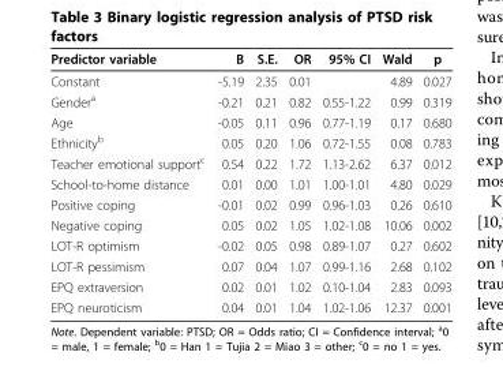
<table><thead><tr><td>Predictor variable</td><td>B</td><td>S.E.</td><td>OR</td><td>95% CI</td><td>Wald</td><td>p</td></tr></thead><tbody><tr><td>Constant</td><td>-5.19</td><td>2.35</td><td>0.01</td><td></td><td>4.89</td><td>0.027</td></tr><tr><td>Gender<sup>a</sup></td><td>-0.21</td><td>0.21</td><td>0.82</td><td>0.55-1.22</td><td>0.99</td><td>0.319</td></tr><tr><td>Age</td><td>-0.05</td><td>0.11</td><td>0.96</td><td>0.77-1.19</td><td>0.17</td><td>0.680</td></tr><tr><td>Ethnicity<sup>b</sup></td><td>0.05</td><td>0.20</td><td>1.06</td><td>0.72-1.55</td><td>0.08</td><td>0.783</td></tr><tr><td>Teacher emotional support<sup>c</sup></td><td>0.54</td><td>0.22</td><td>1.72</td><td>1.13-2.62</td><td>6.37</td><td>0.012</td></tr><tr><td>School-to-home distance</td><td>0.01</td><td>0.00</td><td>1.01</td><td>1.00-1.01</td><td>4.80</td><td>0.029</td></tr><tr><td>Positive coping</td><td>-0.01</td><td>0.02</td><td>0.99</td><td>0.96-1.03</td><td>0.26</td><td>0.610</td></tr><tr><td>Negative coping</td><td>0.05</td><td>0.02</td><td>1.05</td><td>1.02-1.08</td><td>10.06</td><td>0.002</td></tr><tr><td>LOT-R optimism</td><td>-0.02</td><td>0.05</td><td>0.98</td><td>0.89-1.07</td><td>0.27</td><td>0.602</td></tr><tr><td>LOT-R pessimism</td><td>0.07</td><td>0.04</td><td>1.07</td><td>0.99-1.16</td><td>2.68</td><td>0.102</td></tr><tr><td>EPQ extraversion</td><td>0.02</td><td>0.01</td><td>1.02</td><td>0.10-1.04</td><td>2.83</td><td>0.093</td></tr><tr><td>EPQ neuroticism</td><td>0.04</td><td>0.01</td><td>1.04</td><td>1.02-1.06</td><td>12.37</td><td>0.001</td></tr></tbody></table>